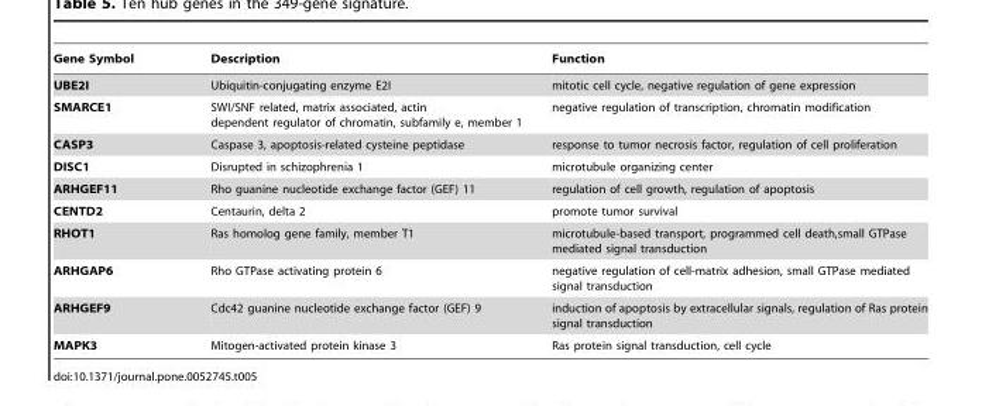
<table><thead><tr><td>Gene Symbol</td><td>Description</td><td>Function</td></tr></thead><tbody><tr><td>UBE2I</td><td>Ubiquitin-conjugating enzyme E2I</td><td>mitotic cell cycle, negative regulation of gene expression</td></tr><tr><td>SMARCE1</td><td>SWI/SNF related, matrix associated, actin dependent regulator of chromatin, subfamily e, member 1</td><td>negative regulation of transcription, chromatin modification</td></tr><tr><td>CASP3</td><td>Caspase 3, apoptosis-related cysteine peptidase</td><td>response to tumor necrosis factor, regulation of cell proliferation</td></tr><tr><td>DISC1</td><td>Disrupted in schizophrenia 1</td><td>microtubule organizing center</td></tr><tr><td>ARHGEF11</td><td>Rho guanine nucleotide exchange factor (GEF) 11</td><td>regulation of cell growth, regulation of apoptosis</td></tr><tr><td>CENTD2</td><td>Centaurin, delta 2</td><td>promote tumor survival</td></tr><tr><td>RHOT1</td><td>Ras homolog gene family, member T1</td><td>microtubule-based transport, programmed cell death,small GTPase mediated signal transduction</td></tr><tr><td>ARHGAP6</td><td>Rho GTPase activating protein 6</td><td>negative regulation of cell-matrix adhesion, small GTPase mediated signal transduction</td></tr><tr><td>ARHGEF9</td><td>Cdc42 guanine nucleotide exchange factor (GEF) 9</td><td>induction of apoptosis by extracellular signals, regulation of Ras protein signal transduction</td></tr><tr><td>MAPK3</td><td>Mitogen-activated protein kinase 3</td><td>Ras protein signal transduction, cell cycle</td></tr></tbody></table>